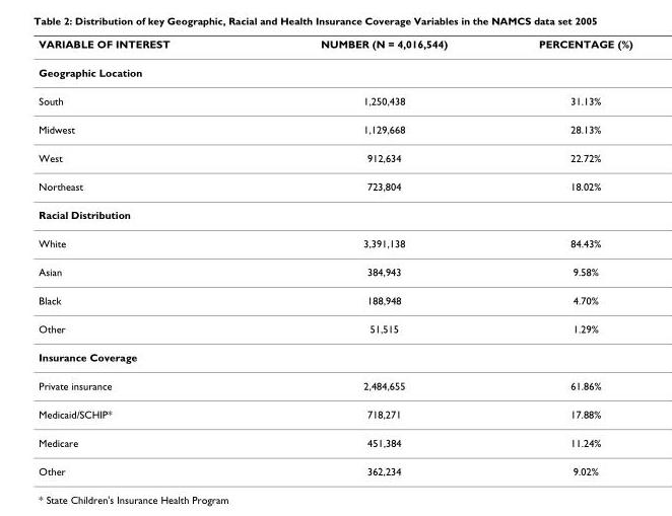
<table><thead><tr><td>VARIABLE OF INTEREST</td><td>NUMBER (N = 4,016,544)</td><td>PERCENTAGE (%)</td></tr></thead><tbody><tr><td colspan="3">Geographic Location</td></tr><tr><td>South</td><td>1,250,438</td><td>31.13%</td></tr><tr><td>Midwest</td><td>1,129,668</td><td>28.13%</td></tr><tr><td>West</td><td>912,634</td><td>22.72%</td></tr><tr><td>Northeast</td><td>723,804</td><td>18.02%</td></tr><tr><td colspan="3">Racial Distribution</td></tr><tr><td>White</td><td>3,391,138</td><td>84.43%</td></tr><tr><td>Asian</td><td>384,943</td><td>9.58%</td></tr><tr><td>Black</td><td>188,948</td><td>4.70%</td></tr><tr><td>Other</td><td>51,515</td><td>1.29%</td></tr><tr><td colspan="3">Insurance Coverage</td></tr><tr><td>Private insurance</td><td>2,484,655</td><td>61.86%</td></tr><tr><td>Medicaid/SCHIP*</td><td>718,271</td><td>17.88%</td></tr><tr><td>Medicare</td><td>451,384</td><td>11.24%</td></tr><tr><td>Other</td><td>362,234</td><td>9.02%</td></tr></tbody></table>